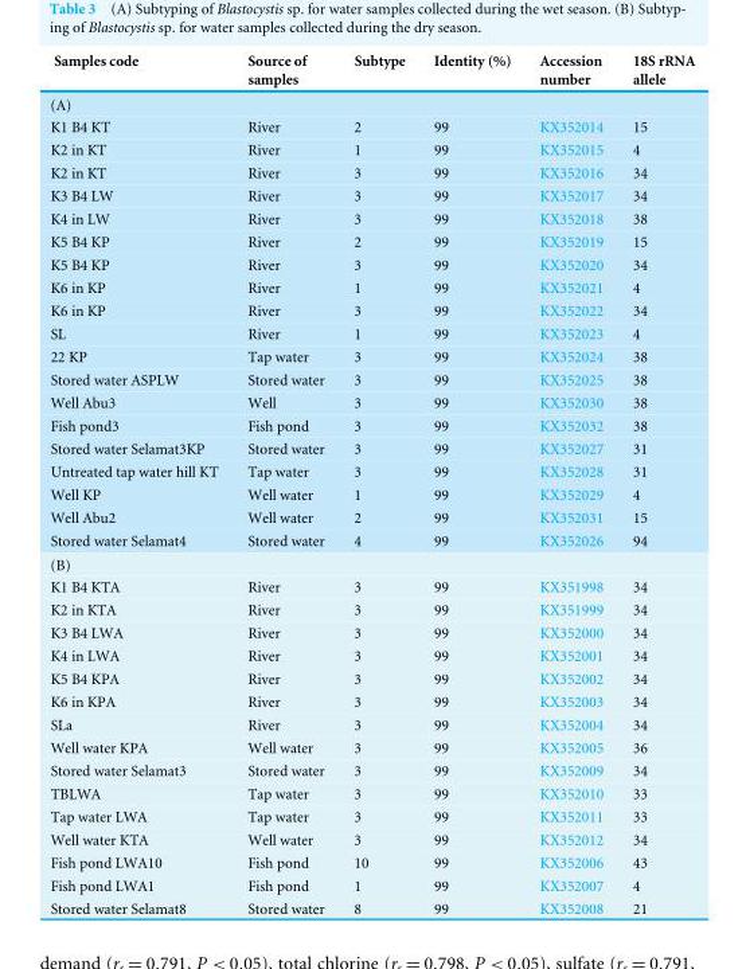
<table><thead><tr><td>Samples code</td><td>Source of samples</td><td>Subtype</td><td>Identity (%)</td><td>Accession number</td><td>18S rRNA allele</td></tr></thead><tbody><tr><td colspan="6">(A)</td></tr><tr><td>K1 B4 KT</td><td>River</td><td>2</td><td>99</td><td>KX352014</td><td>15</td></tr><tr><td>K2 in KT</td><td>River</td><td>1</td><td>99</td><td>KX352015</td><td>4</td></tr><tr><td>K2 in KT</td><td>River</td><td>3</td><td>99</td><td>KX352016</td><td>34</td></tr><tr><td>K3 B4 LW</td><td>River</td><td>3</td><td>99</td><td>KX352017</td><td>34</td></tr><tr><td>K4 in LW</td><td>River</td><td>3</td><td>99</td><td>KX352018</td><td>38</td></tr><tr><td>K5 B4 KP</td><td>River</td><td>2</td><td>99</td><td>KX352019</td><td>15</td></tr><tr><td>K5 B4 KP</td><td>River</td><td>3</td><td>99</td><td>KX352020</td><td>34</td></tr><tr><td>K6 in KP</td><td>River</td><td>1</td><td>99</td><td>KX352021</td><td>4</td></tr><tr><td>K6 in KP</td><td>River</td><td>3</td><td>99</td><td>KX352022</td><td>34</td></tr><tr><td>SL</td><td>River</td><td>1</td><td>99</td><td>KX352023</td><td>4</td></tr><tr><td>22 KP</td><td>Tap water</td><td>3</td><td>99</td><td>KX352024</td><td>38</td></tr><tr><td>Stored water ASPLW</td><td>Stored water</td><td>3</td><td>99</td><td>KX352025</td><td>38</td></tr><tr><td>Well Abu3</td><td>Well</td><td>3</td><td>99</td><td>KX352030</td><td>38</td></tr><tr><td>Fish pond3</td><td>Fish pond</td><td>3</td><td>99</td><td>KX352032</td><td>38</td></tr><tr><td>Stored water Selamat3KP</td><td>Stored water</td><td>3</td><td>99</td><td>KX352027</td><td>31</td></tr><tr><td>Untreated tap water hill KT</td><td>Tap water</td><td>3</td><td>99</td><td>KX352028</td><td>31</td></tr><tr><td>Well KP</td><td>Well water</td><td>1</td><td>99</td><td>KX352029</td><td>4</td></tr><tr><td>Well Abu2</td><td>Well water</td><td>2</td><td>99</td><td>KX352031</td><td>15</td></tr><tr><td>Stored water Selamat4</td><td>Stored water</td><td>4</td><td>99</td><td>KX352026</td><td>94</td></tr><tr><td colspan="6">(B)</td></tr><tr><td>K1 B4 KTA</td><td>River</td><td>3</td><td>99</td><td>KX351998</td><td>34</td></tr><tr><td>K2 in KTA</td><td>River</td><td>3</td><td>99</td><td>KX351999</td><td>34</td></tr><tr><td>K3 B4 LWA</td><td>River</td><td>3</td><td>99</td><td>KX352000</td><td>34</td></tr><tr><td>K4 in LWA</td><td>River</td><td>3</td><td>99</td><td>KX352001</td><td>34</td></tr><tr><td>K5 B4 KPA</td><td>River</td><td>3</td><td>99</td><td>KX352002</td><td>34</td></tr><tr><td>K6 in KPA</td><td>River</td><td>3</td><td>99</td><td>KX352003</td><td>34</td></tr><tr><td>SLa</td><td>River</td><td>3</td><td>99</td><td>KX352004</td><td>34</td></tr><tr><td>Well water KPA</td><td>Well water</td><td>3</td><td>99</td><td>KX352005</td><td>36</td></tr><tr><td>Stored water Selamat3</td><td>Stored water</td><td>3</td><td>99</td><td>KX352009</td><td>34</td></tr><tr><td>TBLWA</td><td>Tap water</td><td>3</td><td>99</td><td>KX352010</td><td>33</td></tr><tr><td>Tap water LWA</td><td>Tap water</td><td>3</td><td>99</td><td>KX352011</td><td>33</td></tr><tr><td>Well water KTA</td><td>Well water</td><td>3</td><td>99</td><td>KX352012</td><td>34</td></tr><tr><td>Fish pond LWA10</td><td>Fish pond</td><td>10</td><td>99</td><td>KX352006</td><td>43</td></tr><tr><td>Fish pond LWA1</td><td>Fish pond</td><td>1</td><td>99</td><td>KX352007</td><td>4</td></tr><tr><td>Stored water Selamat8</td><td>Stored water</td><td>8</td><td>99</td><td>KX352008</td><td>21</td></tr></tbody></table>